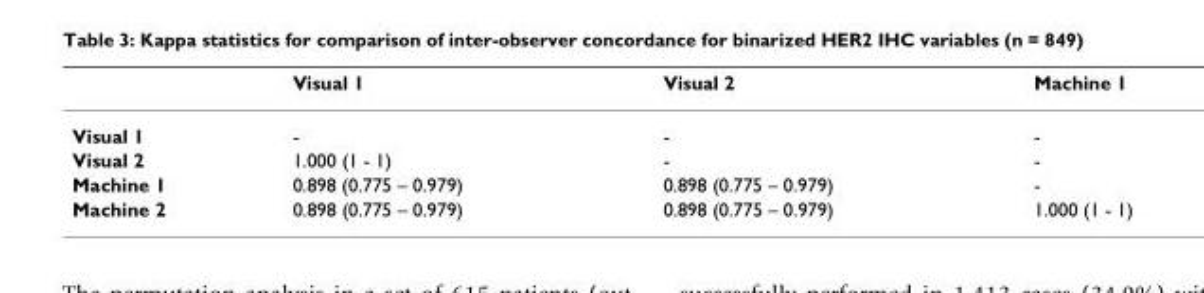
<table><thead><tr><td></td><td>Visual 1</td><td>Visual 2</td><td>Machine 1</td></tr></thead><tbody><tr><td>Visual 1</td><td>-</td><td>-</td><td>-</td></tr><tr><td>Visual 2</td><td>1.000 (1 - 1)</td><td>-</td><td>-</td></tr><tr><td>Machine 1</td><td>0.898 (0.775 – 0.979)</td><td>0.898 (0.775 – 0.979)</td><td>-</td></tr><tr><td>Machine 2</td><td>0.898 (0.775 – 0.979)</td><td>0.898 (0.775 – 0.979)</td><td>1.000 (1 - 1)</td></tr></tbody></table>